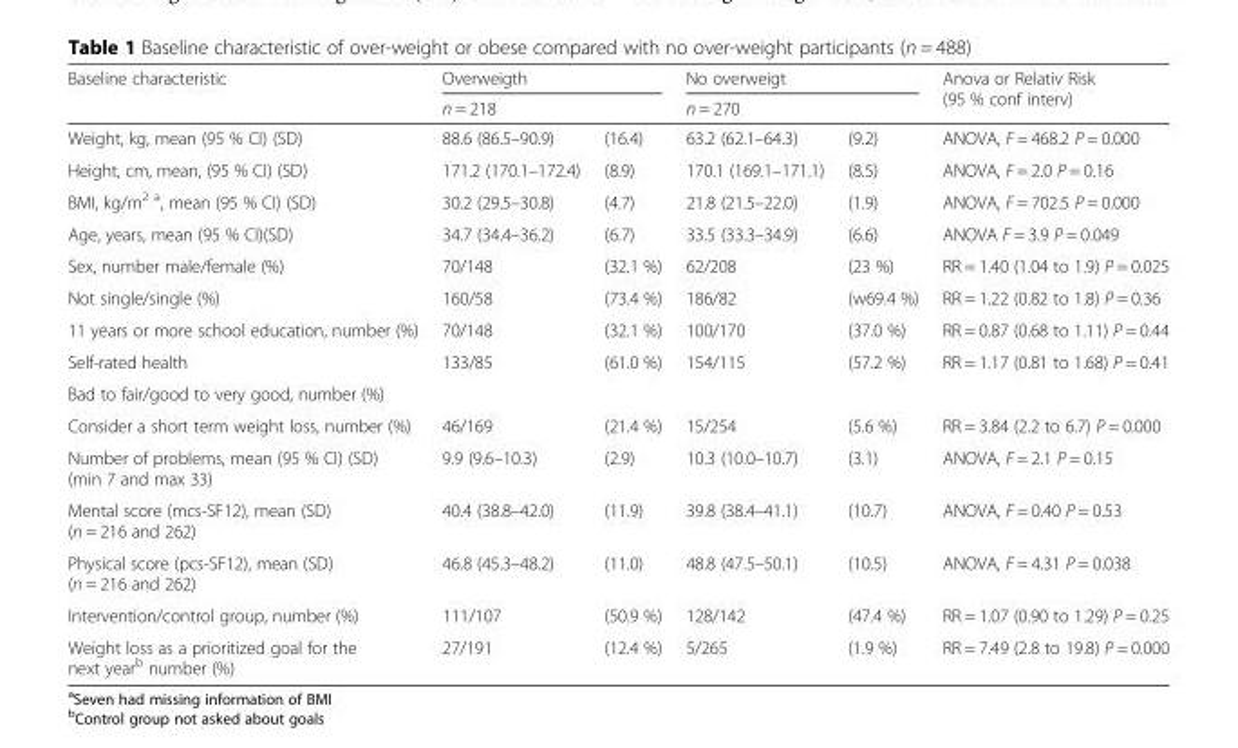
<table><thead><tr><td rowspan="3">Baseline characteristic Weight, kg, mean (95 % CI) (SD)</td><td rowspan="2" colspan="2">Overweigth n = 218</td><td rowspan="2" colspan="2">No overweigt n = 270</td><td rowspan="3">Anova or Relativ Risk (95 % conf interv) ANOVA, F = 468.2 P = 0.000</td></tr><tr></tr><tr><td>88.6 (86.5–90.9)</td><td>(16.4)</td><td>63.2 (62.1–64.3)</td><td>(9.2)</td></tr></thead><tbody><tr><td>Height, cm, mean, (95 % CI) (SD)</td><td>171.2 (170.1–172.4)</td><td>(8.9)</td><td>170.1 (169.1–171.1)</td><td>(8.5)</td><td>ANOVA, F = 2.0 P = 0.16</td></tr><tr><td>BMI, kg/m<sup>2 a</sup>, mean (95 % CI) (SD)</td><td>30.2 (29.5–30.8)</td><td>(4.7)</td><td>21.8 (21.5–22.0)</td><td>(1.9)</td><td>ANOVA, F = 702.5 P = 0.000</td></tr><tr><td>Age, years, mean (95 % CI)(SD)</td><td>34.7 (34.4–36.2)</td><td>(6.7)</td><td>33.5 (33.3–34.9)</td><td>(6.6)</td><td>ANOVA F = 3.9 P = 0.049</td></tr><tr><td>Sex, number male/female (%)</td><td>70/148</td><td>(32.1 %)</td><td>62/208</td><td>(23 %)</td><td>RR = 1.40 (1.04 to 1.9) P = 0.025</td></tr><tr><td>Not single/single (%)</td><td>160/58</td><td>(73.4 %)</td><td>186/82</td><td>(w69.4 %)</td><td>RR = 1.22 (0.82 to 1.8) P = 0.36</td></tr><tr><td>11 years or more school education, number (%)</td><td>70/148</td><td>(32.1 %)</td><td>100/170</td><td>(37.0 %)</td><td>RR = 0.87 (0.68 to 1.11) P = 0.44</td></tr><tr><td>Self-rated health</td><td rowspan="2">133/85</td><td rowspan="2">(61.0 %)</td><td rowspan="2">154/115</td><td rowspan="2">(57.2 %)</td><td rowspan="2">RR = 1.17 (0.81 to 1.68) P = 0.41</td></tr><tr><td>Bad to fair/good to very good, number (%)</td></tr><tr><td>Consider a short term weight loss, number (%)</td><td>46/169</td><td>(21.4 %)</td><td>15/254</td><td>(5.6 %)</td><td>RR = 3.84 (2.2 to 6.7) P = 0.000</td></tr><tr><td>Number of problems, mean (95 % CI) (SD) (min 7 and max 33)</td><td>9.9 (9.6–10.3)</td><td>(2.9)</td><td>10.3 (10.0–10.7)</td><td>(3.1)</td><td>ANOVA, F = 2.1 P = 0.15</td></tr><tr><td>Mental score (mcs-SF12), mean (SD) (n = 216 and 262)</td><td>40.4 (38.8–42.0)</td><td>(11.9)</td><td>39.8 (38.4–41.1)</td><td>(10.7)</td><td>ANOVA, F = 0.40 P = 0.53</td></tr><tr><td>Physical score (pcs-SF12), mean (SD) (n = 216 and 262)</td><td>46.8 (45.3–48.2)</td><td>(11.0)</td><td>48.8 (47.5–50.1)</td><td>(10.5)</td><td>ANOVA, F = 4.31 P = 0.038</td></tr><tr><td>Intervention/control group, number (%)</td><td>111/107</td><td>(50.9 %)</td><td>128/142</td><td>(47.4 %)</td><td>RR = 1.07 (0.90 to 1.29) P = 0.25</td></tr><tr><td>Weight loss as a prioritized goal for the next year<sup>b</sup> number (%)</td><td>27/191</td><td>(12.4 %)</td><td>5/265</td><td>(1.9 %)</td><td>RR = 7.49 (2.8 to 19.8) P = 0.000</td></tr></tbody></table>